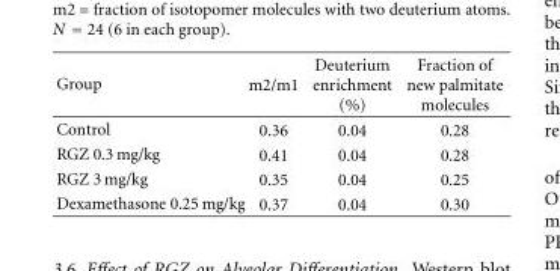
<table><thead><tr><td>Group</td><td>m2/m1</td><td>Deuterium enrichment (%)</td><td>Fraction of new palmitate molecules</td></tr></thead><tbody><tr><td>Control</td><td>0.36</td><td>0.04</td><td>0.28</td></tr><tr><td>RGZ 0.3 mg/kg</td><td>0.41</td><td>0.04</td><td>0.28</td></tr><tr><td>RGZ 3 mg/kg</td><td>0.35</td><td>0.04</td><td>0.25</td></tr><tr><td>Dexamethasone 0.25 mg/kg</td><td>0.37</td><td>0.04</td><td>0.30</td></tr></tbody></table>